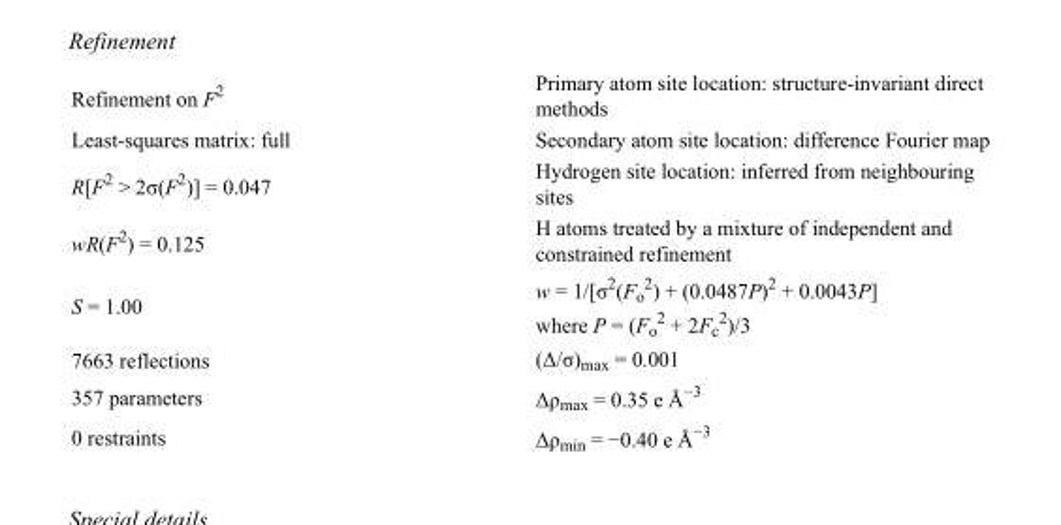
<table><tbody><tr><td>Refinement on F<sup>2</sup></td><td>Primary atom site location: structure-invariant direct methods</td></tr><tr><td>Least-squares matrix: full</td><td>Secondary atom site location: difference Fourier map</td></tr><tr><td>R[F<sup>2</sup> &gt; 2σ(F<sup>2</sup>)] = 0.047</td><td>Hydrogen site location: inferred from neighbouring sites</td></tr><tr><td>wR(F<sup>2</sup>) = 0.125</td><td>H atoms treated by a mixture of independent and constrained refinement</td></tr><tr><td>S = 1.00</td><td>w = 1/[σ<sup>2</sup>(F<sub>o</sub> <sup>2</sup>) + (0.0487P)<sup>2</sup> + 0.0043P] where P = (F<sub>o</sub> <sup>2</sup> + 2F<sub>c</sub> <sup>2</sup>)/3</td></tr><tr><td>7663 reflections</td><td>(Δ/σ)<sub>max</sub> = 0.001</td></tr><tr><td>357 parameters</td><td>Δρ<sub>max</sub> = 0.35 e Å<sup>−3</sup></td></tr><tr><td>0 restraints</td><td>Δρ<sub>min</sub> = −0.40 e Å<sup>−3</sup></td></tr></tbody></table>